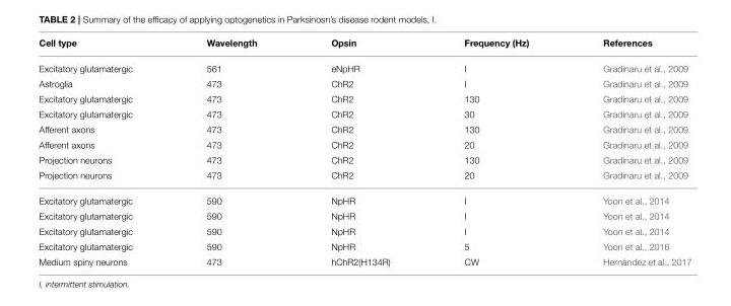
<table><thead><tr><td>Cell type</td><td>Wavelength</td><td>Opsin</td><td>Frequency (Hz)</td><td>References</td></tr></thead><tbody><tr><td>Excitatory glutamatergic</td><td>561</td><td>eNpHR</td><td>I</td><td>Gradinaru et al., 2009</td></tr><tr><td>Astroglia</td><td>473</td><td>ChR2</td><td>I</td><td>Gradinaru et al., 2009</td></tr><tr><td>Excitatory glutamatergic</td><td>473</td><td>ChR2</td><td>130</td><td>Gradinaru et al., 2009</td></tr><tr><td>Excitatory glutamatergic</td><td>473</td><td>ChR2</td><td>30</td><td>Gradinaru et al., 2009</td></tr><tr><td>Afferent axons</td><td>473</td><td>ChR2</td><td>130</td><td>Gradinaru et al., 2009</td></tr><tr><td>Afferent axons</td><td>473</td><td>ChR2</td><td>20</td><td>Gradinaru et al., 2009</td></tr><tr><td>Projection neurons</td><td>473</td><td>ChR2</td><td>130</td><td>Gradinaru et al., 2009</td></tr><tr><td>Projection neurons</td><td>473</td><td>ChR2</td><td>20</td><td>Gradinaru et al., 2009</td></tr><tr><td>Excitatory glutamatergic</td><td>590</td><td>NpHR</td><td>I</td><td>Yoon et al., 2014</td></tr><tr><td>Excitatory glutamatergic</td><td>590</td><td>NpHR</td><td>I</td><td>Yoon et al., 2014</td></tr><tr><td>Excitatory glutamatergic</td><td>590</td><td>NpHR</td><td>I</td><td>Yoon et al., 2014</td></tr><tr><td>Excitatory glutamatergic</td><td>590</td><td>NpHR</td><td>5</td><td>Yoon et al., 2016</td></tr><tr><td>Medium spiny neurons</td><td>473</td><td>hChR2(H134R)</td><td>CW</td><td>Hernández et al., 2017</td></tr></tbody></table>